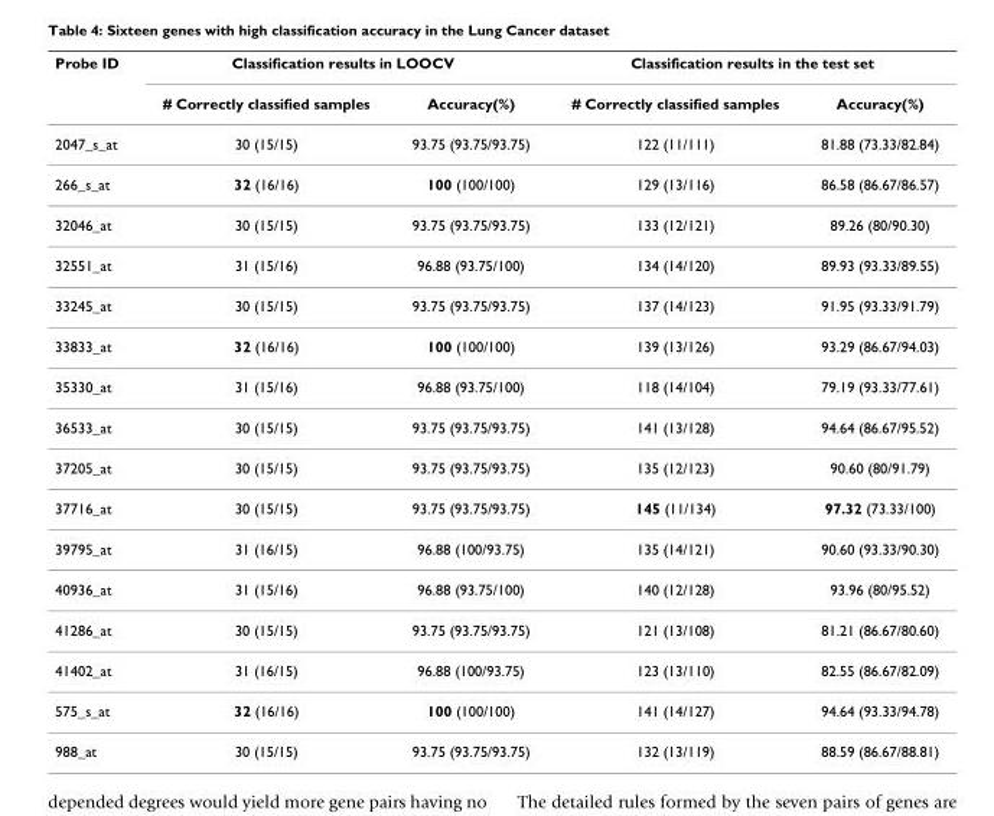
<table><thead><tr><td rowspan="2">Probe ID</td><td colspan="2">Classification results in LOOCV</td><td colspan="2">Classification results in the test set</td></tr><tr><td># Correctly classified samples</td><td>Accuracy(%)</td><td># Correctly classified samples</td><td>Accuracy(%)</td></tr></thead><tbody><tr><td>2047_s_at</td><td>30 (15/15)</td><td>93.75 (93.75/93.75)</td><td>122 (11/111)</td><td>81.88 (73.33/82.84)</td></tr><tr><td>266_s_at</td><td>32 (16/16)</td><td>100 (100/100)</td><td>129 (13/116)</td><td>86.58 (86.67/86.57)</td></tr><tr><td>32046_at</td><td>30 (15/15)</td><td>93.75 (93.75/93.75)</td><td>133 (12/121)</td><td>89.26 (80/90.30)</td></tr><tr><td>32551_at</td><td>31 (15/16)</td><td>96.88 (93.75/100)</td><td>134 (14/120)</td><td>89.93 (93.33/89.55)</td></tr><tr><td>33245_at</td><td>30 (15/15)</td><td>93.75 (93.75/93.75)</td><td>137 (14/123)</td><td>91.95 (93.33/91.79)</td></tr><tr><td>33833_at</td><td>32 (16/16)</td><td>100 (100/100)</td><td>139 (13/126)</td><td>93.29 (86.67/94.03)</td></tr><tr><td>35330_at</td><td>31 (15/16)</td><td>96.88 (93.75/100)</td><td>118 (14/104)</td><td>79.19 (93.33/77.61)</td></tr><tr><td>36533_at</td><td>30 (15/15)</td><td>93.75 (93.75/93.75)</td><td>141 (13/128)</td><td>94.64 (86.67/95.52)</td></tr><tr><td>37205_at</td><td>30 (15/15)</td><td>93.75 (93.75/93.75)</td><td>135 (12/123)</td><td>90.60 (80/91.79)</td></tr><tr><td>37716_at</td><td>30 (15/15)</td><td>93.75 (93.75/93.75)</td><td>145 (11/134)</td><td>97.32 (73.33/100)</td></tr><tr><td>39795_at</td><td>31 (16/15)</td><td>96.88 (100/93.75)</td><td>135 (14/121)</td><td>90.60 (93.33/90.30)</td></tr><tr><td>40936_at</td><td>31 (15/16)</td><td>96.88 (93.75/100)</td><td>140 (12/128)</td><td>93.96 (80/95.52)</td></tr><tr><td>41286_at</td><td>30 (15/15)</td><td>93.75 (93.75/93.75)</td><td>121 (13/108)</td><td>81.21 (86.67/80.60)</td></tr><tr><td>41402_at</td><td>31 (16/15)</td><td>96.88 (100/93.75)</td><td>123 (13/110)</td><td>82.55 (86.67/82.09)</td></tr><tr><td>575_s_at</td><td>32 (16/16)</td><td>100 (100/100)</td><td>141 (14/127)</td><td>94.64 (93.33/94.78)</td></tr><tr><td>988_at</td><td>30 (15/15)</td><td>93.75 (93.75/93.75)</td><td>132 (13/119)</td><td>88.59 (86.67/88.81)</td></tr></tbody></table>